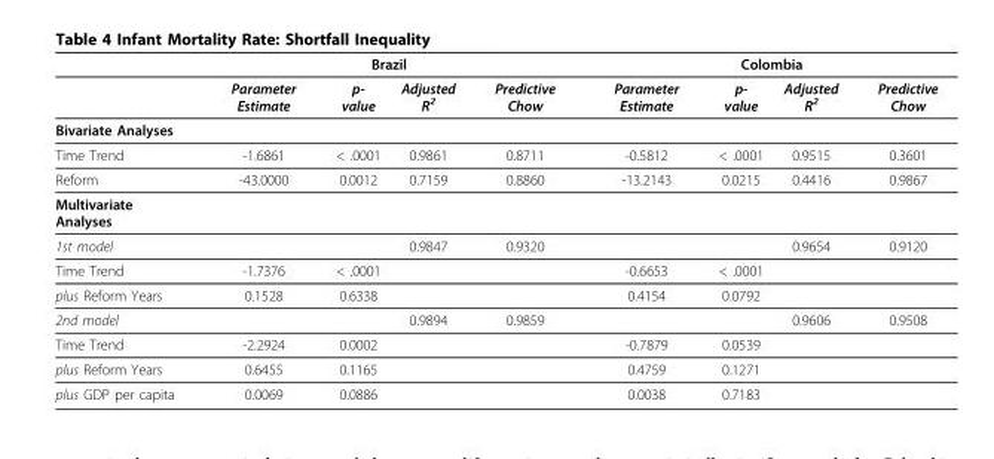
<table><thead><tr><td rowspan="2"></td><td colspan="4">Brazil</td><td colspan="4">Colombia</td></tr><tr><td>Parameter Estimate</td><td>p- value</td><td>Adjusted R2</td><td>Predictive Chow</td><td>Parameter Estimate</td><td>p- value</td><td>Adjusted R2</td><td>Predictive Chow</td></tr></thead><tbody><tr><td colspan="9">Bivariate Analyses</td></tr><tr><td>Time Trend</td><td>-1.6861</td><td>&lt; .0001</td><td>0.9861</td><td>0.8711</td><td>-0.5812</td><td>&lt; .0001</td><td>0.9515</td><td>0.3601</td></tr><tr><td>Reform</td><td>-43.0000</td><td>0.0012</td><td>0.7159</td><td>0.8860</td><td>-13.2143</td><td>0.0215</td><td>0.4416</td><td>0.9867</td></tr><tr><td colspan="9">Multivariate Analyses</td></tr><tr><td>1st model</td><td></td><td></td><td>0.9847</td><td>0.9320</td><td></td><td></td><td>0.9654</td><td>0.9120</td></tr><tr><td>Time Trend</td><td>-1.7376</td><td>&lt; .0001</td><td></td><td></td><td>-0.6653</td><td>&lt; .0001</td><td></td><td></td></tr><tr><td>plus Reform Years</td><td>0.1528</td><td>0.6338</td><td></td><td></td><td>0.4154</td><td>0.0792</td><td></td><td></td></tr><tr><td>2nd model</td><td></td><td></td><td>0.9894</td><td>0.9859</td><td></td><td></td><td>0.9606</td><td>0.9508</td></tr><tr><td>Time Trend</td><td>-2.2924</td><td>0.0002</td><td></td><td></td><td>-0.7879</td><td>0.0539</td><td></td><td></td></tr><tr><td>plus Reform Years</td><td>0.6455</td><td>0.1165</td><td></td><td></td><td>0.4759</td><td>0.1271</td><td></td><td></td></tr><tr><td>plus GDP per capita</td><td>0.0069</td><td>0.0886</td><td></td><td></td><td>0.0038</td><td>0.7183</td><td></td><td></td></tr></tbody></table>